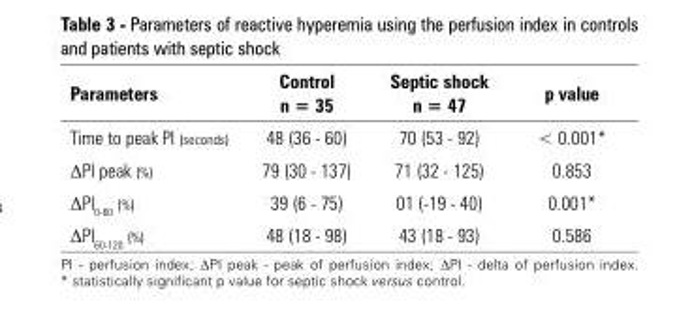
<table><thead><tr><td>Parameters</td><td>Control n = 35</td><td>Septic shock n = 47</td><td>p value</td></tr></thead><tbody><tr><td>Time to peak PI (seconds)</td><td>48 (36 - 60)</td><td>70 (53 - 92)</td><td>&lt; 0.001*</td></tr><tr><td>ΔPI peak (%)</td><td>79 (30 - 137)</td><td>71 (32 - 125)</td><td>0.853</td></tr><tr><td>ΔPI<sub>0-60</sub> (%)</td><td>39 (6 - 75)</td><td>01 (-19 - 40)</td><td>0.001*</td></tr><tr><td>ΔPI<sub>60-120</sub> (%)</td><td>48 (18 - 98)</td><td>43 (18 - 93)</td><td>0.586</td></tr></tbody></table>